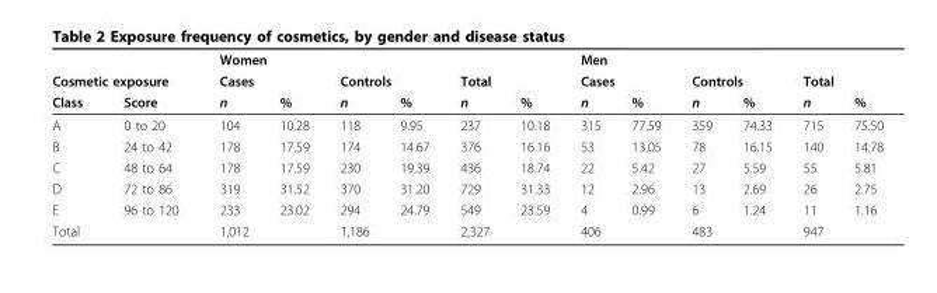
<table><thead><tr><td></td><td></td><td colspan="6">Women</td><td colspan="6">Men</td></tr><tr><td colspan="2">Cosmetic exposure</td><td colspan="2">Cases</td><td colspan="2">Controls</td><td colspan="2">Total</td><td colspan="2">Cases</td><td colspan="2">Controls</td><td colspan="2">Total</td></tr><tr><td>Class</td><td>Score</td><td>n</td><td>%</td><td>n</td><td>%</td><td>n</td><td>%</td><td>n</td><td>%</td><td>n</td><td>%</td><td>n</td><td>%</td></tr></thead><tbody><tr><td>A</td><td>0 to 20</td><td>104</td><td>10.28</td><td>118</td><td>9.95</td><td>237</td><td>10.18</td><td>315</td><td>77.59</td><td>359</td><td>74.33</td><td>715</td><td>75.50</td></tr><tr><td>B</td><td>24 to 42</td><td>178</td><td>17.59</td><td>174</td><td>14.67</td><td>376</td><td>16.16</td><td>53</td><td>13.05</td><td>78</td><td>16.15</td><td>140</td><td>14.78</td></tr><tr><td>C</td><td>48 to 64</td><td>178</td><td>17.59</td><td>230</td><td>19.39</td><td>436</td><td>18.74</td><td>22</td><td>5.42</td><td>27</td><td>5.59</td><td>55</td><td>5.81</td></tr><tr><td>D</td><td>72 to 86</td><td>319</td><td>31.52</td><td>370</td><td>31.20</td><td>729</td><td>31.33</td><td>12</td><td>2.96</td><td>13</td><td>2.69</td><td>26</td><td>2.75</td></tr><tr><td>E</td><td>96 to 120</td><td>233</td><td>23.02</td><td>294</td><td>24.79</td><td>549</td><td>23.59</td><td>4</td><td>0.99</td><td>6</td><td>1.24</td><td>11</td><td>1.16</td></tr><tr><td>Total</td><td></td><td>1,012</td><td></td><td>1,186</td><td></td><td>2,327</td><td></td><td>406</td><td></td><td>483</td><td></td><td>947</td><td></td></tr></tbody></table>